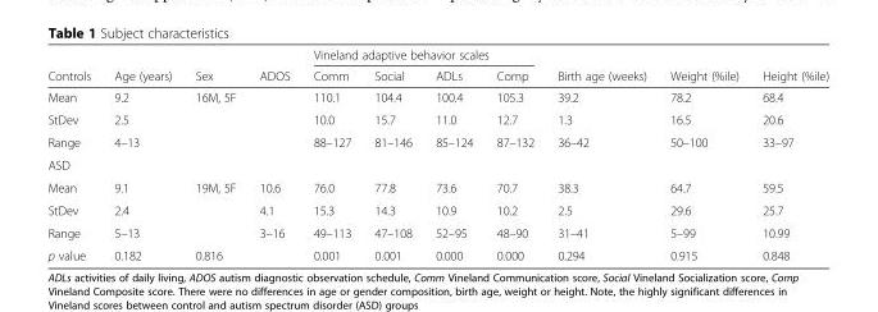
<table><thead><tr><td rowspan="2">Controls</td><td rowspan="2">Age (years)</td><td rowspan="2">Sex</td><td rowspan="2">ADOS</td><td colspan="4">Vineland adaptive behavior scales</td><td rowspan="2">Birth age (weeks)</td><td rowspan="2">Weight (%ile)</td><td rowspan="2">Height (%ile)</td></tr><tr><td>Comm</td><td>Social</td><td>ADLs</td><td>Comp</td></tr></thead><tbody><tr><td>Mean</td><td>9.2</td><td>16M, 5F</td><td></td><td>110.1</td><td>104.4</td><td>100.4</td><td>105.3</td><td>39.2</td><td>78.2</td><td>68.4</td></tr><tr><td>StDev</td><td>2.5</td><td></td><td></td><td>10.0</td><td>15.7</td><td>11.0</td><td>12.7</td><td>1.3</td><td>16.5</td><td>20.6</td></tr><tr><td>Range</td><td>4–13</td><td></td><td></td><td>88–127</td><td>81–146</td><td>85–124</td><td>87–132</td><td>36–42</td><td>50–100</td><td>33–97</td></tr><tr><td colspan="11">ASD</td></tr><tr><td>Mean</td><td>9.1</td><td>19M, 5F</td><td>10.6</td><td>76.0</td><td>77.8</td><td>73.6</td><td>70.7</td><td>38.3</td><td>64.7</td><td>59.5</td></tr><tr><td>StDev</td><td>2.4</td><td></td><td>4.1</td><td>15.3</td><td>14.3</td><td>10.9</td><td>10.2</td><td>2.5</td><td>29.6</td><td>25.7</td></tr><tr><td>Range</td><td>5–13</td><td></td><td>3–16</td><td>49–113</td><td>47–108</td><td>52–95</td><td>48–90</td><td>31–41</td><td>5–99</td><td>10.99</td></tr><tr><td>p value</td><td>0.182</td><td>0.816</td><td></td><td>0.001</td><td>0.001</td><td>0.000</td><td>0.000</td><td>0.294</td><td>0.915</td><td>0.848</td></tr></tbody></table>